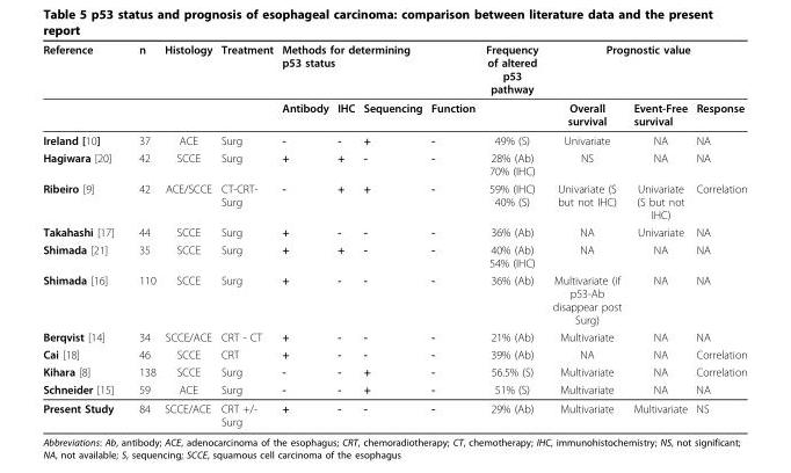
<table><thead><tr><td rowspan="2">Reference</td><td rowspan="2">n</td><td rowspan="2">Histology</td><td rowspan="2">Treatment</td><td colspan="4">Methods for determining p53 status</td><td rowspan="2">Frequency of altered p53 pathway</td><td colspan="3">Prognostic value</td></tr><tr><td>Antibody</td><td>IHC</td><td>Sequencing</td><td>Function</td><td>Overall survival</td><td>Event-Free survival</td><td>Response</td></tr></thead><tbody><tr><td>Ireland [10]</td><td>37</td><td>ACE</td><td>Surg</td><td>-</td><td>-</td><td>+</td><td>-</td><td>49% (S)</td><td>Univariate</td><td>NA</td><td>NA</td></tr><tr><td>Hagiwara [20]</td><td>42</td><td>SCCE</td><td>Surg</td><td>+</td><td>+</td><td>-</td><td>-</td><td>28% (Ab) 70% (IHC)</td><td>NS</td><td>NA</td><td>NA</td></tr><tr><td>Ribeiro [9]</td><td>42</td><td>ACE/SCCE</td><td>CT-CRT- Surg</td><td>-</td><td>+</td><td>+</td><td>-</td><td>59% (IHC) 40% (S)</td><td>Univariate (S but not IHC)</td><td>Univariate (S but not IHC)</td><td>Correlation</td></tr><tr><td>Takahashi [17]</td><td>44</td><td>SCCE</td><td>Surg</td><td>+</td><td>-</td><td>-</td><td>-</td><td>36% (Ab)</td><td>NA</td><td>Univariate</td><td>NA</td></tr><tr><td>Shimada [21]</td><td>35</td><td>SCCE</td><td>Surg</td><td>+</td><td>+</td><td>-</td><td>-</td><td>40% (Ab) 54% (IHC)</td><td>NA</td><td>NA</td><td>NA</td></tr><tr><td>Shimada [16]</td><td>110</td><td>SCCE</td><td>Surg</td><td>+</td><td>-</td><td>-</td><td>-</td><td>36% (Ab)</td><td>Multivariate (if p53-Ab disappear post Surg)</td><td>NA</td><td>NA</td></tr><tr><td>Berqvist [14]</td><td>34</td><td>SCCE/ACE</td><td>CRT - CT</td><td>+</td><td>-</td><td>-</td><td>-</td><td>21% (Ab)</td><td>Multivariate</td><td>NA</td><td>NA</td></tr><tr><td>Cai [18]</td><td>46</td><td>SCCE</td><td>CRT</td><td>+</td><td>-</td><td>-</td><td>-</td><td>39% (Ab)</td><td>NA</td><td>NA</td><td>Correlation</td></tr><tr><td>Kihara [8]</td><td>138</td><td>SCCE</td><td>Surg</td><td>-</td><td>-</td><td>+</td><td>-</td><td>56.5% (S)</td><td>Multivariate</td><td>NA</td><td>Correlation</td></tr><tr><td>Schneider [15]</td><td>59</td><td>ACE</td><td>Surg</td><td>-</td><td>-</td><td>+</td><td>-</td><td>51% (S)</td><td>Multivariate</td><td>NA</td><td>NA</td></tr><tr><td>Present Study</td><td>84</td><td>SCCE/ACE</td><td>CRT +/- Surg</td><td>+</td><td>-</td><td>-</td><td>-</td><td>29% (Ab)</td><td>Multivariate</td><td>Multivariate</td><td>NS</td></tr></tbody></table>